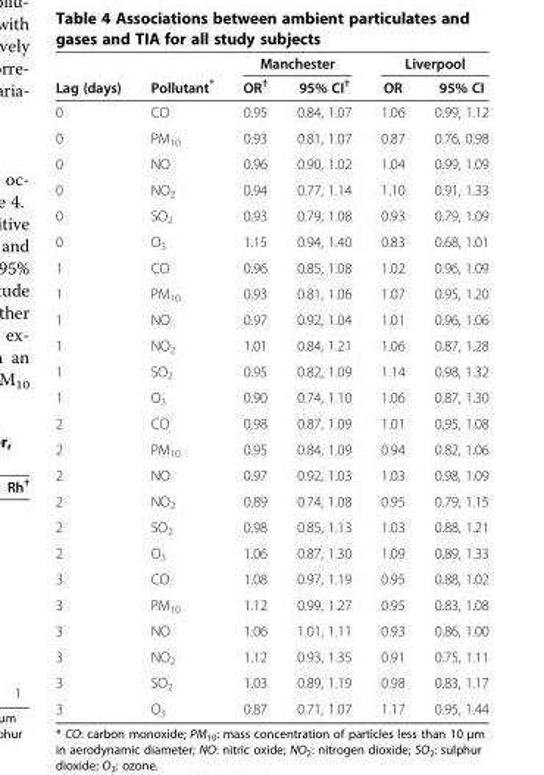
<table><thead><tr><td rowspan="2">Lag (days)</td><td rowspan="2">Pollutant*</td><td colspan="2">Manchester</td><td colspan="2">Liverpool</td></tr><tr><td>OR<sup>†</sup></td><td>95% CI<sup>†</sup></td><td>OR</td><td>95% CI</td></tr></thead><tbody><tr><td>0</td><td>CO</td><td>0.95</td><td>0.84, 1.07</td><td>1.06</td><td>0.99, 1.12</td></tr><tr><td>0</td><td>PM<sub>10</sub></td><td>0.93</td><td>0.81, 1.07</td><td>0.87</td><td>0.76, 0.98</td></tr><tr><td>0</td><td>NO</td><td>0.96</td><td>0.90, 1.02</td><td>1.04</td><td>0.99, 1.09</td></tr><tr><td>0</td><td>NO<sub>2</sub></td><td>0.94</td><td>0.77, 1.14</td><td>1.10</td><td>0.91, 1.33</td></tr><tr><td>0</td><td>SO<sub>2</sub></td><td>0.93</td><td>0.79, 1.08</td><td>0.93</td><td>0.79, 1.09</td></tr><tr><td>0</td><td>O<sub>3</sub></td><td>1.15</td><td>0.94, 1.40</td><td>0.83</td><td>0.68, 1.01</td></tr><tr><td>1</td><td>CO</td><td>0.96</td><td>0.85, 1.08</td><td>1.02</td><td>0.96, 1.09</td></tr><tr><td>1</td><td>PM<sub>10</sub></td><td>0.93</td><td>0.81, 1.06</td><td>1.07</td><td>0.95, 1.20</td></tr><tr><td>1</td><td>NO</td><td>0.97</td><td>0.92, 1.04</td><td>1.01</td><td>0.96, 1.06</td></tr><tr><td>1</td><td>NO<sub>2</sub></td><td>1.01</td><td>0.84, 1.21</td><td>1.06</td><td>0.87, 1.28</td></tr><tr><td>1</td><td>SO<sub>2</sub></td><td>0.95</td><td>0.82, 1.09</td><td>1.14</td><td>0.98, 1.32</td></tr><tr><td>1</td><td>O<sub>3</sub></td><td>0.90</td><td>0.74, 1.10</td><td>1.06</td><td>0.87, 1.30</td></tr><tr><td>2</td><td>CO</td><td>0.98</td><td>0.87, 1.09</td><td>1.01</td><td>0.95, 1.08</td></tr><tr><td>2</td><td>PM<sub>10</sub></td><td>0.95</td><td>0.84, 1.09</td><td>0.94</td><td>0.82, 1.06</td></tr><tr><td>2</td><td>NO</td><td>0.97</td><td>0.92, 1.03</td><td>1.03</td><td>0.98, 1.09</td></tr><tr><td>2</td><td>NO<sub>2</sub></td><td>0.89</td><td>0.74, 1.08</td><td>0.95</td><td>0.79, 1.15</td></tr><tr><td>2</td><td>SO<sub>2</sub></td><td>0.98</td><td>0.85, 1.13</td><td>1.03</td><td>0.88, 1.21</td></tr><tr><td>2</td><td>O<sub>3</sub></td><td>1.06</td><td>0.87, 1.30</td><td>1.09</td><td>0.89, 1.33</td></tr><tr><td>3</td><td>CO</td><td>1.08</td><td>0.97, 1.19</td><td>0.95</td><td>0.88, 1.02</td></tr><tr><td>3</td><td>PM<sub>10</sub></td><td>1.12</td><td>0.99, 1.27</td><td>0.95</td><td>0.83, 1.08</td></tr><tr><td>3</td><td>NO</td><td>1.06</td><td>1.01, 1.11</td><td>0.93</td><td>0.86, 1.00</td></tr><tr><td>3</td><td>NO<sub>2</sub></td><td>1.12</td><td>0.93, 1.35</td><td>0.91</td><td>0.75, 1.11</td></tr><tr><td>3</td><td>SO<sub>2</sub></td><td>1.03</td><td>0.89, 1.19</td><td>0.98</td><td>0.83, 1.17</td></tr><tr><td>3</td><td>O<sub>3</sub></td><td>0.87</td><td>0.71, 1.07</td><td>1.17</td><td>0.95, 1.44</td></tr></tbody></table>